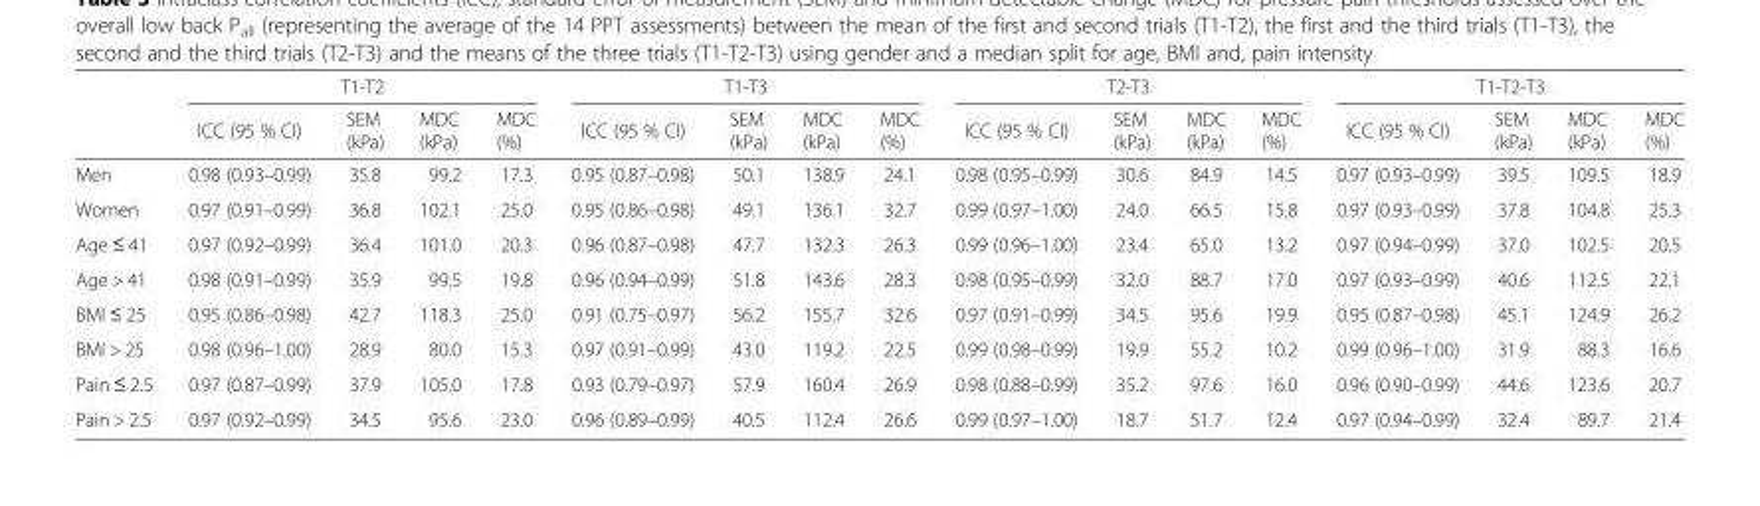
<table><thead><tr><td rowspan="2"></td><td colspan="4">T1-T2</td><td colspan="4">T1-T3</td><td colspan="4">T2-T3</td><td colspan="4">T1-T2-T3</td></tr><tr><td>ICC (95 % CI)</td><td>SEM (kPa)</td><td>MDC (kPa)</td><td>MDC (%)</td><td>ICC (95 % CI)</td><td>SEM (kPa)</td><td>MDC (kPa)</td><td>MDC (%)</td><td>ICC (95 % CI)</td><td>SEM (kPa)</td><td>MDC (kPa)</td><td>MDC (%)</td><td>ICC (95 % CI)</td><td>SEM (kPa)</td><td>MDC (kPa)</td><td>MDC (%)</td></tr></thead><tbody><tr><td>Men</td><td>0.98 (0.93–0.99)</td><td>35.8</td><td>99.2</td><td>17.3</td><td>0.95 (0.87–0.98)</td><td>50.1</td><td>138.9</td><td>24.1</td><td>0.98 (0.95–0.99)</td><td>30.6</td><td>84.9</td><td>14.5</td><td>0.97 (0.93–0.99)</td><td>39.5</td><td>109.5</td><td>18.9</td></tr><tr><td>Women</td><td>0.97 (0.91–0.99)</td><td>36.8</td><td>102.1</td><td>25.0</td><td>0.95 (0.86–0.98)</td><td>49.1</td><td>136.1</td><td>32.7</td><td>0.99 (0.97–1.00)</td><td>24.0</td><td>66.5</td><td>15.8</td><td>0.97 (0.93–0.99)</td><td>37.8</td><td>104.8</td><td>25.3</td></tr><tr><td>Age ≤ 41</td><td>0.97 (0.92–0.99)</td><td>36.4</td><td>101.0</td><td>20.3</td><td>0.96 (0.87–0.98)</td><td>47.7</td><td>132.3</td><td>26.3</td><td>0.99 (0.96–1.00)</td><td>23.4</td><td>65.0</td><td>13.2</td><td>0.97 (0.94–0.99)</td><td>37.0</td><td>102.5</td><td>20.5</td></tr><tr><td>Age &gt; 41</td><td>0.98 (0.91–0.99)</td><td>35.9</td><td>99.5</td><td>19.8</td><td>0.96 (0.94–0.99)</td><td>51.8</td><td>143.6</td><td>28.3</td><td>0.98 (0.95–0.99)</td><td>32.0</td><td>88.7</td><td>17.0</td><td>0.97 (0.93–0.99)</td><td>40.6</td><td>112.5</td><td>22.1</td></tr><tr><td>BMI ≤ 25</td><td>0.95 (0.86–0.98)</td><td>42.7</td><td>118.3</td><td>25.0</td><td>0.91 (0.75–0.97)</td><td>56.2</td><td>155.7</td><td>32.6</td><td>0.97 (0.91–0.99)</td><td>34.5</td><td>95.6</td><td>19.9</td><td>0.95 (0.87–0.98)</td><td>45.1</td><td>124.9</td><td>26.2</td></tr><tr><td>BMI &gt; 25</td><td>0.98 (0.96–1.00)</td><td>28.9</td><td>80.0</td><td>15.3</td><td>0.97 (0.91–0.99)</td><td>43.0</td><td>119.2</td><td>22.5</td><td>0.99 (0.98–0.99)</td><td>19.9</td><td>55.2</td><td>10.2</td><td>0.99 (0.96–1.00)</td><td>31.9</td><td>88.3</td><td>16.6</td></tr><tr><td>Pain ≤ 2.5</td><td>0.97 (0.87–0.99)</td><td>37.9</td><td>105.0</td><td>17.8</td><td>0.93 (0.79–0.97)</td><td>57.9</td><td>160.4</td><td>26.9</td><td>0.98 (0.88–0.99)</td><td>35.2</td><td>97.6</td><td>16.0</td><td>0.96 (0.90–0.99)</td><td>44.6</td><td>123.6</td><td>20.7</td></tr><tr><td>Pain &gt; 2.5</td><td>0.97 (0.92–0.99)</td><td>34.5</td><td>95.6</td><td>23.0</td><td>0.96 (0.89–0.99)</td><td>40.5</td><td>112.4</td><td>26.6</td><td>0.99 (0.97–1.00)</td><td>18.7</td><td>51.7</td><td>12.4</td><td>0.97 (0.94–0.99)</td><td>32.4</td><td>89.7</td><td>21.4</td></tr></tbody></table>